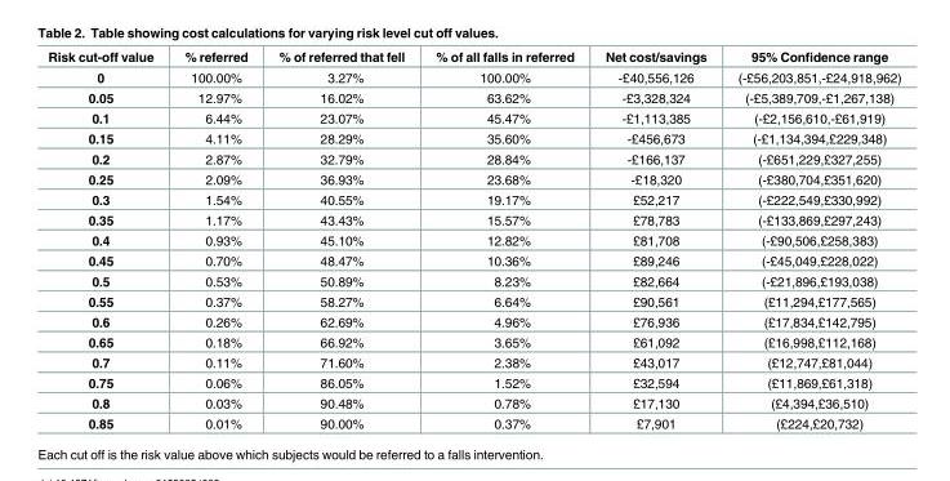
<table><thead><tr><td>Risk cut-off value</td><td>% referred</td><td>% of referred that fell</td><td>% of all falls in referred</td><td>Net cost/savings</td><td>95% Confidence range</td></tr></thead><tbody><tr><td>0</td><td>100.00%</td><td>3.27%</td><td>100.00%</td><td>-£40,556,126</td><td>(-£56,203,851,-£24,918,962)</td></tr><tr><td>0.05</td><td>12.97%</td><td>16.02%</td><td>63.62%</td><td>-£3,328,324</td><td>(-£5,389,709,-£1,267,138)</td></tr><tr><td>0.1</td><td>6.44%</td><td>23.07%</td><td>45.47%</td><td>-£1,113,385</td><td>(-£2,156,610,-£61,919)</td></tr><tr><td>0.15</td><td>4.11%</td><td>28.29%</td><td>35.60%</td><td>-£456,673</td><td>(-£1,134,394,£229,348)</td></tr><tr><td>0.2</td><td>2.87%</td><td>32.79%</td><td>28.84%</td><td>-£166,137</td><td>(-£651,229,£327,255)</td></tr><tr><td>0.25</td><td>2.09%</td><td>36.93%</td><td>23.68%</td><td>-£18,320</td><td>(-£380,704,£351,620)</td></tr><tr><td>0.3</td><td>1.54%</td><td>40.55%</td><td>19.17%</td><td>£52,217</td><td>(-£222,549,£330,992)</td></tr><tr><td>0.35</td><td>1.17%</td><td>43.43%</td><td>15.57%</td><td>£78,783</td><td>(-£133,869,£297,243)</td></tr><tr><td>0.4</td><td>0.93%</td><td>45.10%</td><td>12.82%</td><td>£81,708</td><td>(-£90,506,£258,383)</td></tr><tr><td>0.45</td><td>0.70%</td><td>48.47%</td><td>10.36%</td><td>£89,246</td><td>(-£45,049,£228,022)</td></tr><tr><td>0.5</td><td>0.53%</td><td>50.89%</td><td>8.23%</td><td>£82,664</td><td>(-£21,896,£193,038)</td></tr><tr><td>0.55</td><td>0.37%</td><td>58.27%</td><td>6.64%</td><td>£90,561</td><td>(£11,294,£177,565)</td></tr><tr><td>0.6</td><td>0.26%</td><td>62.69%</td><td>4.96%</td><td>£76,936</td><td>(£17,834,£142,795)</td></tr><tr><td>0.65</td><td>0.18%</td><td>66.92%</td><td>3.65%</td><td>£61,092</td><td>(£16,998,£112,168)</td></tr><tr><td>0.7</td><td>0.11%</td><td>71.60%</td><td>2.38%</td><td>£43,017</td><td>(£12,747,£81,044)</td></tr><tr><td>0.75</td><td>0.06%</td><td>86.05%</td><td>1.52%</td><td>£32,594</td><td>(£11,869,£61,318)</td></tr><tr><td>0.8</td><td>0.03%</td><td>90.48%</td><td>0.78%</td><td>£17,130</td><td>(£4,394,£36,510)</td></tr><tr><td>0.85</td><td>0.01%</td><td>90.00%</td><td>0.37%</td><td>£7,901</td><td>(£224,£20,732)</td></tr></tbody></table>